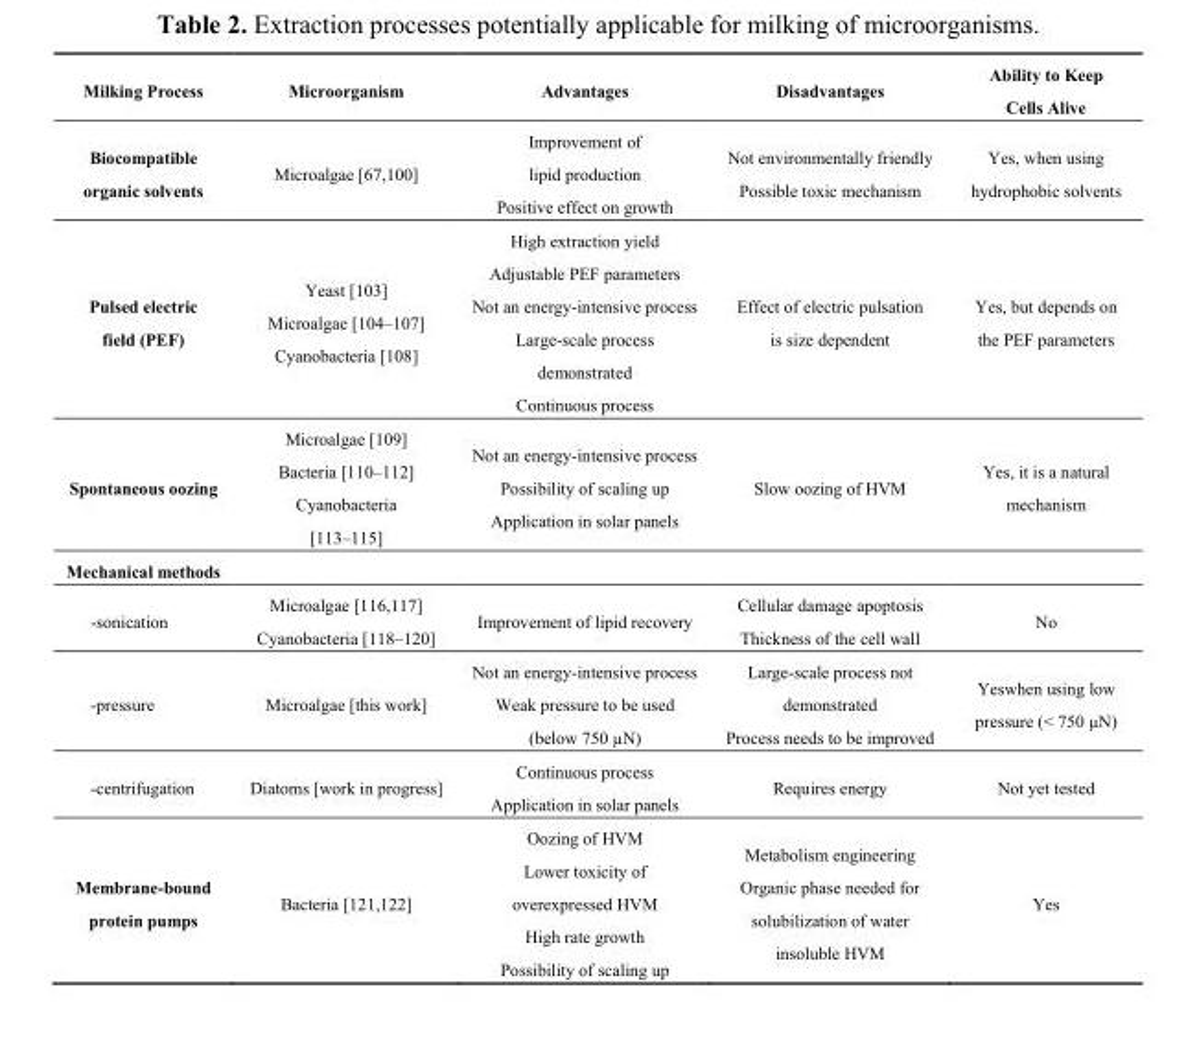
<table><thead><tr><td>Milking Process</td><td>Microorganism</td><td>Advantages</td><td>Disadvantages</td><td>Ability to Keep Cells Alive</td></tr></thead><tbody><tr><td>Biocompatible organic solvents</td><td>Microalgae [67,100]</td><td>Improvement of lipid production Positive effect on growth</td><td>Not environmentally friendly Possible toxic mechanism</td><td>Yes, when using hydrophobic solvents</td></tr><tr><td>Pulsed electric field (PEF)</td><td>Yeast [103] Microalgae [104–107] Cyanobacteria [108]</td><td>High extraction yield Adjustable PEF parameters Not an energy-intensive process Large-scale process demonstrated Continuous process</td><td>Effect of electric pulsation is size dependent</td><td>Yes, but depends on the PEF parameters</td></tr><tr><td>Spontaneous oozing</td><td>Microalgae [109] Bacteria [110–112] Cyanobacteria [113–115]</td><td>Not an energy-intensive process Possibility of scaling up Application in solar panels</td><td>Slow oozing of HVM</td><td>Yes, it is a natural mechanism</td></tr><tr><td colspan="5">Mechanical methods</td></tr><tr><td>-sonication</td><td>Microalgae [116,117] Cyanobacteria [118–120]</td><td>Improvement of lipid recovery</td><td>Cellular damage apoptosis Thickness of the cell wall</td><td>No</td></tr><tr><td>-pressure</td><td>Microalgae [this work]</td><td>Not an energy-intensive process Weak pressure to be used (below 750 µN)</td><td>Large-scale process not demonstrated Process needs to be improved</td><td>Yeswhen using low pressure (&lt; 750 µN)</td></tr><tr><td>-centrifugation</td><td>Diatoms [work in progress]</td><td>Continuous process Application in solar panels</td><td>Requires energy</td><td>Not yet tested</td></tr><tr><td>Membrane-bound protein pumps</td><td>Bacteria [121,122]</td><td>Oozing of HVM Lower toxicity of overexpressed HVM High rate growth Possibility of scaling up</td><td>Metabolism engineering Organic phase needed for solubilization of water insoluble HVM</td><td>Yes</td></tr></tbody></table>